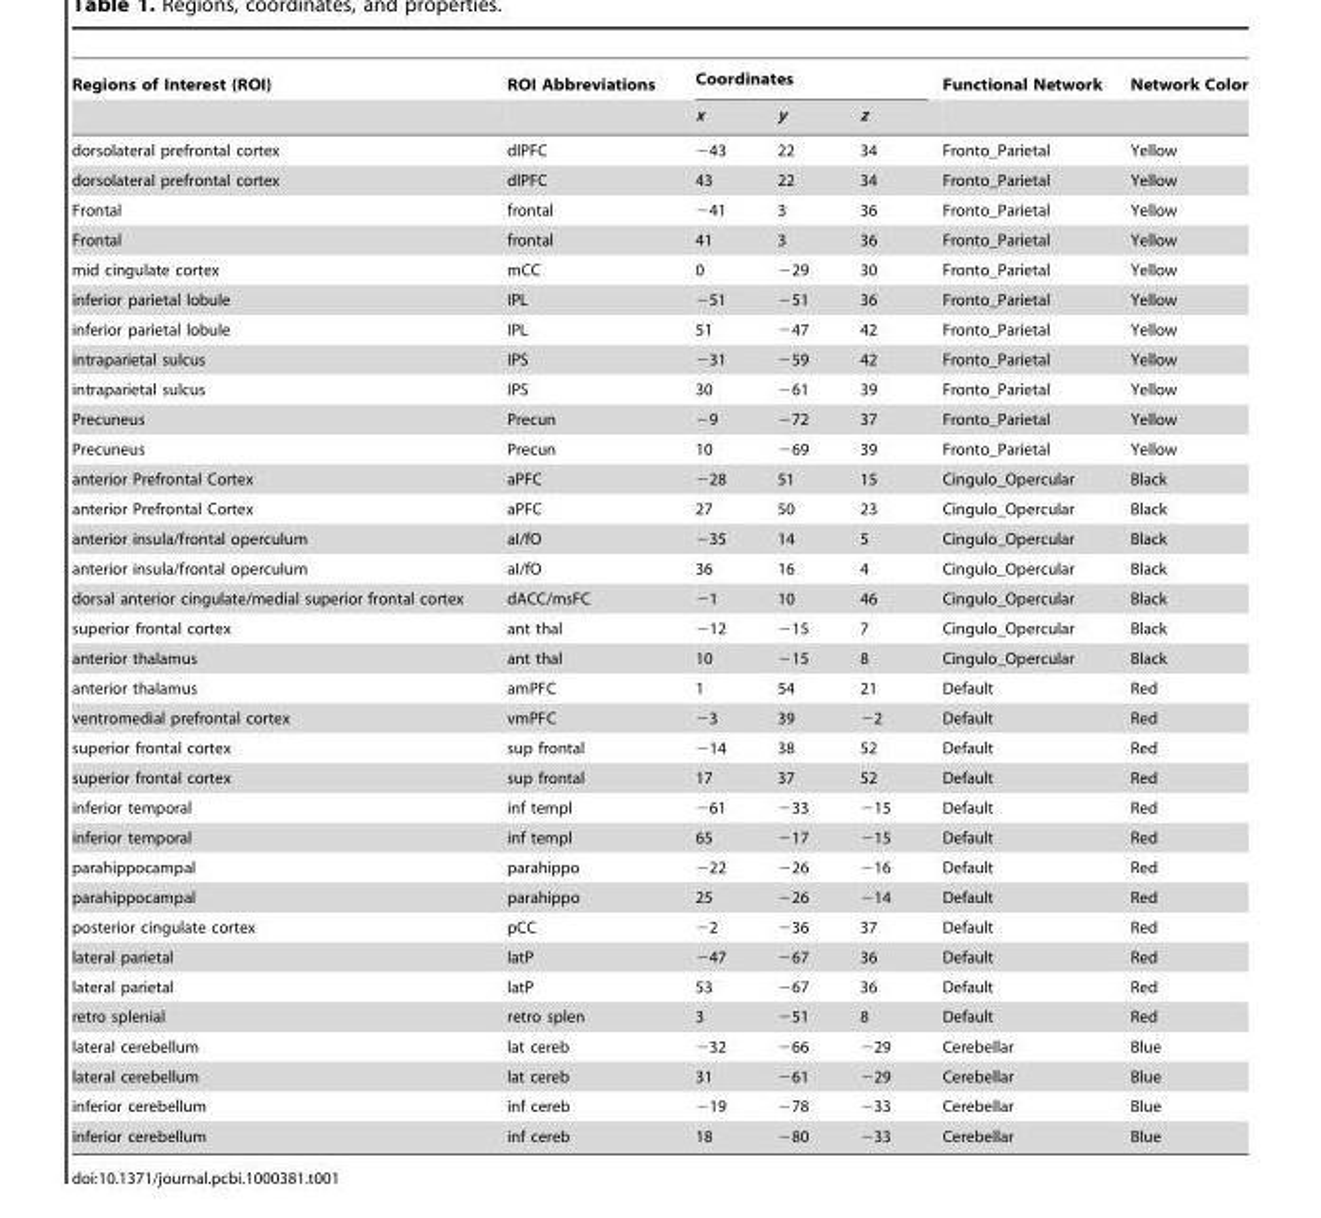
<table><thead><tr><td rowspan="2">Regions of Interest (ROI)</td><td rowspan="2">ROI Abbreviations</td><td colspan="3">Coordinates</td><td rowspan="2">Functional Network</td><td rowspan="2">Network Color</td></tr><tr><td>x</td><td>y</td><td>z</td></tr></thead><tbody><tr><td>dorsolateral prefrontal cortex</td><td>dlPFC</td><td>−43</td><td>22</td><td>34</td><td>Fronto_Parietal</td><td>Yellow</td></tr><tr><td>dorsolateral prefrontal cortex</td><td>dlPFC</td><td>43</td><td>22</td><td>34</td><td>Fronto_Parietal</td><td>Yellow</td></tr><tr><td>Frontal</td><td>frontal</td><td>−41</td><td>3</td><td>36</td><td>Fronto_Parietal</td><td>Yellow</td></tr><tr><td>Frontal</td><td>frontal</td><td>41</td><td>3</td><td>36</td><td>Fronto_Parietal</td><td>Yellow</td></tr><tr><td>mid cingulate cortex</td><td>mCC</td><td>0</td><td>−29</td><td>30</td><td>Fronto_Parietal</td><td>Yellow</td></tr><tr><td>inferior parietal lobule</td><td>IPL</td><td>−51</td><td>−51</td><td>36</td><td>Fronto_Parietal</td><td>Yellow</td></tr><tr><td>inferior parietal lobule</td><td>IPL</td><td>51</td><td>−47</td><td>42</td><td>Fronto_Parietal</td><td>Yellow</td></tr><tr><td>intraparietal sulcus</td><td>IPS</td><td>−31</td><td>−59</td><td>42</td><td>Fronto_Parietal</td><td>Yellow</td></tr><tr><td>intraparietal sulcus</td><td>IPS</td><td>30</td><td>−61</td><td>39</td><td>Fronto_Parietal</td><td>Yellow</td></tr><tr><td>Precuneus</td><td>Precun</td><td>−9</td><td>−72</td><td>37</td><td>Fronto_Parietal</td><td>Yellow</td></tr><tr><td>Precuneus</td><td>Precun</td><td>10</td><td>−69</td><td>39</td><td>Fronto_Parietal</td><td>Yellow</td></tr><tr><td>anterior Prefrontal Cortex</td><td>aPFC</td><td>−28</td><td>51</td><td>15</td><td>Cingulo_Opercular</td><td>Black</td></tr><tr><td>anterior Prefrontal Cortex</td><td>aPFC</td><td>27</td><td>50</td><td>23</td><td>Cingulo_Opercular</td><td>Black</td></tr><tr><td>anterior insula/frontal operculum</td><td>aI/fO</td><td>−35</td><td>14</td><td>5</td><td>Cingulo_Opercular</td><td>Black</td></tr><tr><td>anterior insula/frontal operculum</td><td>aI/fO</td><td>36</td><td>16</td><td>4</td><td>Cingulo_Opercular</td><td>Black</td></tr><tr><td>dorsal anterior cingulate/medial superior frontal cortex</td><td>dACC/msFC</td><td>−1</td><td>10</td><td>46</td><td>Cingulo_Opercular</td><td>Black</td></tr><tr><td>superior frontal cortex</td><td>ant thal</td><td>−12</td><td>−15</td><td>7</td><td>Cingulo_Opercular</td><td>Black</td></tr><tr><td>anterior thalamus</td><td>ant thal</td><td>10</td><td>−15</td><td>8</td><td>Cingulo_Opercular</td><td>Black</td></tr><tr><td>anterior thalamus</td><td>amPFC</td><td>1</td><td>54</td><td>21</td><td>Default</td><td>Red</td></tr><tr><td>ventromedial prefrontal cortex</td><td>vmPFC</td><td>−3</td><td>39</td><td>−2</td><td>Default</td><td>Red</td></tr><tr><td>superior frontal cortex</td><td>sup frontal</td><td>−14</td><td>38</td><td>52</td><td>Default</td><td>Red</td></tr><tr><td>superior frontal cortex</td><td>sup frontal</td><td>17</td><td>37</td><td>52</td><td>Default</td><td>Red</td></tr><tr><td>inferior temporal</td><td>inf templ</td><td>−61</td><td>−33</td><td>−15</td><td>Default</td><td>Red</td></tr><tr><td>inferior temporal</td><td>inf templ</td><td>65</td><td>−17</td><td>−15</td><td>Default</td><td>Red</td></tr><tr><td>parahippocampal</td><td>parahippo</td><td>−22</td><td>−26</td><td>−16</td><td>Default</td><td>Red</td></tr><tr><td>parahippocampal</td><td>parahippo</td><td>25</td><td>−26</td><td>−14</td><td>Default</td><td>Red</td></tr><tr><td>posterior cingulate cortex</td><td>pCC</td><td>−2</td><td>−36</td><td>37</td><td>Default</td><td>Red</td></tr><tr><td>lateral parietal</td><td>latP</td><td>−47</td><td>−67</td><td>36</td><td>Default</td><td>Red</td></tr><tr><td>lateral parietal</td><td>latP</td><td>53</td><td>−67</td><td>36</td><td>Default</td><td>Red</td></tr><tr><td>retro splenial</td><td>retro splen</td><td>3</td><td>−51</td><td>8</td><td>Default</td><td>Red</td></tr><tr><td>lateral cerebellum</td><td>lat cereb</td><td>−32</td><td>−66</td><td>−29</td><td>Cerebellar</td><td>Blue</td></tr><tr><td>lateral cerebellum</td><td>lat cereb</td><td>31</td><td>−61</td><td>−29</td><td>Cerebellar</td><td>Blue</td></tr><tr><td>inferior cerebellum</td><td>inf cereb</td><td>−19</td><td>−78</td><td>−33</td><td>Cerebellar</td><td>Blue</td></tr><tr><td>inferior cerebellum</td><td>inf cereb</td><td>18</td><td>−80</td><td>−33</td><td>Cerebellar</td><td>Blue</td></tr></tbody></table>